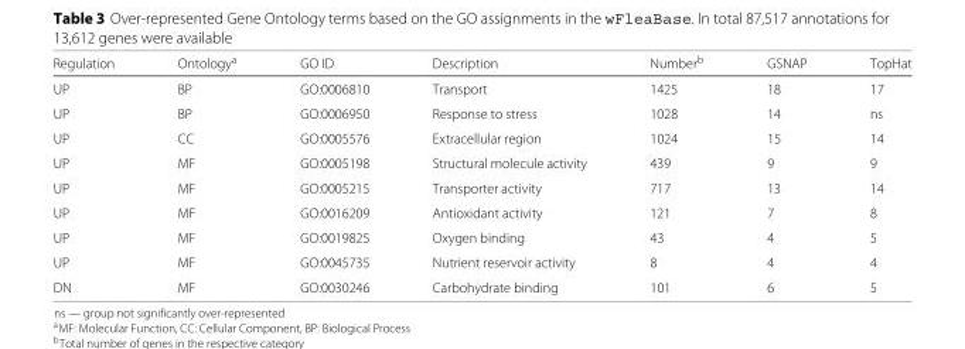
<table><thead><tr><td>Regulation</td><td>Ontology<sup>a</sup></td><td>GO ID</td><td>Description</td><td>Number<sup>b</sup></td><td>GSNAP</td><td>TopHat</td></tr></thead><tbody><tr><td>UP</td><td>BP</td><td>GO:0006810</td><td>Transport</td><td>1425</td><td>18</td><td>17</td></tr><tr><td>UP</td><td>BP</td><td>GO:0006950</td><td>Response to stress</td><td>1028</td><td>14</td><td>ns</td></tr><tr><td>UP</td><td>CC</td><td>GO:0005576</td><td>Extracellular region</td><td>1024</td><td>15</td><td>14</td></tr><tr><td>UP</td><td>MF</td><td>GO:0005198</td><td>Structural molecule activity</td><td>439</td><td>9</td><td>9</td></tr><tr><td>UP</td><td>MF</td><td>GO:0005215</td><td>Transporter activity</td><td>717</td><td>13</td><td>14</td></tr><tr><td>UP</td><td>MF</td><td>GO:0016209</td><td>Antioxidant activity</td><td>121</td><td>7</td><td>8</td></tr><tr><td>UP</td><td>MF</td><td>GO:0019825</td><td>Oxygen binding</td><td>43</td><td>4</td><td>5</td></tr><tr><td>UP</td><td>MF</td><td>GO:0045735</td><td>Nutrient reservoir activity</td><td>8</td><td>4</td><td>4</td></tr><tr><td>DN</td><td>MF</td><td>GO:0030246</td><td>Carbohydrate binding</td><td>101</td><td>6</td><td>5</td></tr></tbody></table>